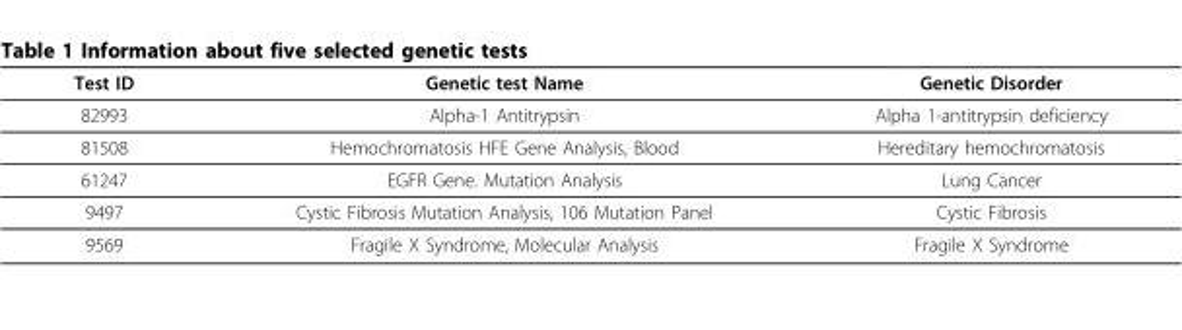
<table><thead><tr><td>Test ID</td><td>Genetic test Name</td><td>Genetic Disorder</td></tr></thead><tbody><tr><td>82993</td><td>Alpha-1 Antitrypsin</td><td>Alpha 1-antitrypsin deficiency</td></tr><tr><td>81508</td><td>Hemochromatosis HFE Gene Analysis, Blood</td><td>Hereditary hemochromatosis</td></tr><tr><td>61247</td><td>EGFR Gene. Mutation Analysis</td><td>Lung Cancer</td></tr><tr><td>9497</td><td>Cystic Fibrosis Mutation Analysis, 106 Mutation Panel</td><td>Cystic Fibrosis</td></tr><tr><td>9569</td><td>Fragile X Syndrome, Molecular Analysis</td><td>Fragile X Syndrome</td></tr></tbody></table>